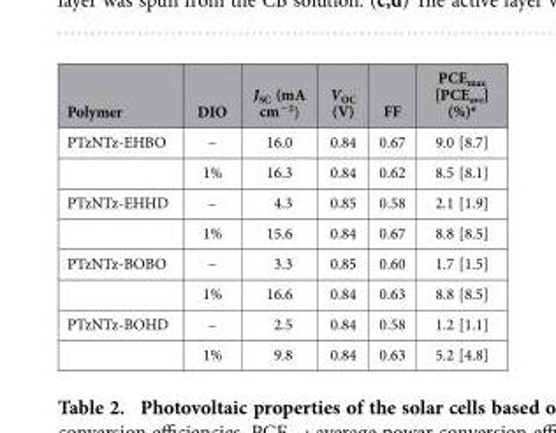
<table><thead><tr><td>Polymer</td><td>DIO</td><td>J<sub>SC</sub> (mA cm<sup>−2</sup>)</td><td>V<sub>OC</sub> (V)</td><td>FF</td><td>PCE<sub>max</sub> [PCE<sub>ave</sub>] (%)<sup>a</sup></td></tr></thead><tbody><tr><td rowspan="2">PTzNTz-EHBO</td><td>–</td><td>16.0</td><td>0.84</td><td>0.67</td><td>9.0 [8.7]</td></tr><tr><td>1%</td><td>16.3</td><td>0.84</td><td>0.62</td><td>8.5 [8.1]</td></tr><tr><td rowspan="2">PTzNTz-EHHD</td><td>–</td><td>4.3</td><td>0.85</td><td>0.58</td><td>2.1 [1.9]</td></tr><tr><td>1%</td><td>15.6</td><td>0.84</td><td>0.67</td><td>8.8 [8.5]</td></tr><tr><td rowspan="2">PTzNTz-BOBO</td><td>–</td><td>3.3</td><td>0.85</td><td>0.60</td><td>1.7 [1.5]</td></tr><tr><td>1%</td><td>16.6</td><td>0.84</td><td>0.63</td><td>8.8 [8.5]</td></tr><tr><td rowspan="2">PTzNTz-BOHD</td><td>–</td><td>2.5</td><td>0.84</td><td>0.58</td><td>1.2 [1.1]</td></tr><tr><td>1%</td><td>9.8</td><td>0.84</td><td>0.63</td><td>5.2 [4.8]</td></tr></tbody></table>